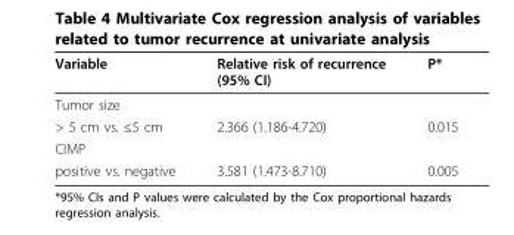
<table><thead><tr><td>Variable</td><td>Relative risk of recurrence (95% CI)</td><td>P*</td></tr></thead><tbody><tr><td colspan="3">Tumor size</td></tr><tr><td>&gt; 5 cm vs. ≤5 cm</td><td>2.366 (1.186-4.720)</td><td>0.015</td></tr><tr><td colspan="3">CIMP</td></tr><tr><td>positive vs. negative</td><td>3.581 (1.473-8.710)</td><td>0.005</td></tr></tbody></table>